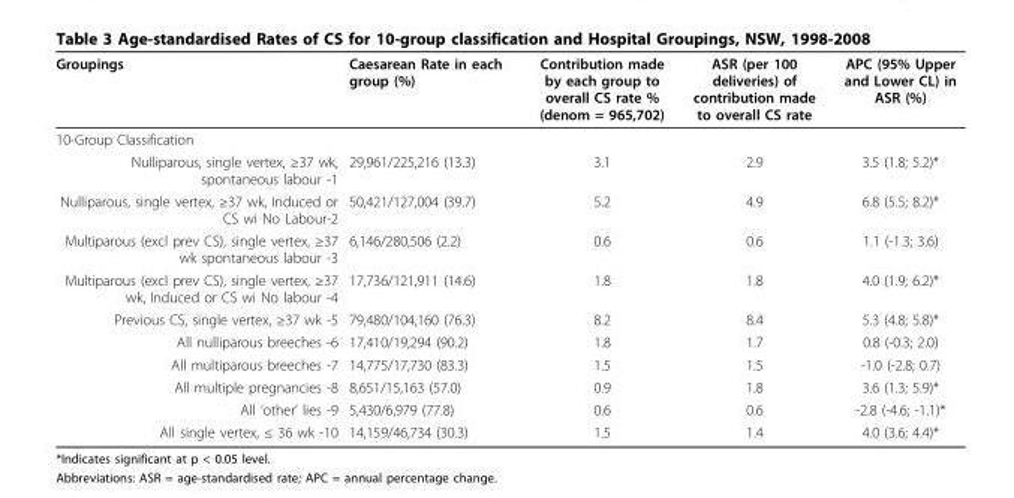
<table><thead><tr><td>Groupings</td><td>Caesarean Rate in each group (%)</td><td>Contribution made by each group to overall CS rate % (denom = 965,702)</td><td>ASR (per 100 deliveries) of contribution made to overall CS rate</td><td>APC (95% Upper and Lower CL) in ASR (%)</td></tr></thead><tbody><tr><td colspan="5">10-Group Classification</td></tr><tr><td>Nulliparous, single vertex, ≥37 wk, spontaneous labour -1</td><td>29,961/225,216 (13.3)</td><td>3.1</td><td>2.9</td><td>3.5 (1.8; 5.2)*</td></tr><tr><td>Nulliparous, single vertex, ≥37 wk, Induced or CS wi No Labour-2</td><td>50,421/127,004 (39.7)</td><td>5.2</td><td>4.9</td><td>6.8 (5.5; 8.2)*</td></tr><tr><td>Multiparous (excl prev CS), single vertex, ≥37 wk spontaneous labour -3</td><td>6,146/280,506 (2.2)</td><td>0.6</td><td>0.6</td><td>1.1 (-1.3; 3.6)</td></tr><tr><td>Multiparous (excl prev CS), single vertex, ≥37 wk, Induced or CS wi No labour -4</td><td>17,736/121,911 (14.6)</td><td>1.8</td><td>1.8</td><td>4.0 (1.9; 6.2)*</td></tr><tr><td>Previous CS, single vertex, ≥37 wk -5</td><td>79,480/104,160 (76.3)</td><td>8.2</td><td>8.4</td><td>5.3 (4.8; 5.8)*</td></tr><tr><td>All nulliparous breeches -6</td><td>17,410/19,294 (90.2)</td><td>1.8</td><td>1.7</td><td>0.8 (-0.3; 2.0)</td></tr><tr><td>All multiparous breeches -7</td><td>14,775/17,730 (83.3)</td><td>1.5</td><td>1.5</td><td>-1.0 (-2.8; 0.7)</td></tr><tr><td>All multiple pregnancies -8</td><td>8,651/15,163 (57.0)</td><td>0.9</td><td>1.8</td><td>3.6 (1.3; 5.9)*</td></tr><tr><td>All ‘other’ lies -9</td><td>5,430/6,979 (77.8)</td><td>0.6</td><td>0.6</td><td>-2.8 (-4.6; -1.1)*</td></tr><tr><td>All single vertex, ≤ 36 wk -10</td><td>14,159/46,734 (30.3)</td><td>1.5</td><td>1.4</td><td>4.0 (3.6; 4.4)*</td></tr></tbody></table>